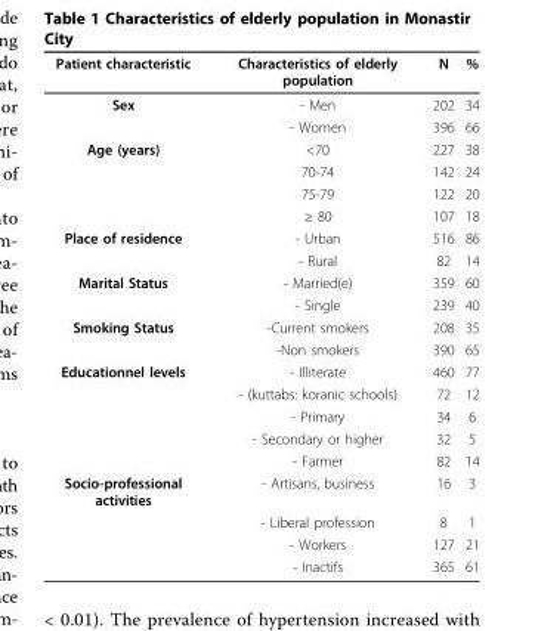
<table><thead><tr><td>Patient characteristic</td><td>Characteristics of elderly population</td><td>N</td><td>%</td></tr></thead><tbody><tr><td rowspan="2">Sex</td><td>- Men</td><td>202</td><td>34</td></tr><tr><td>- Women</td><td>396</td><td>66</td></tr><tr><td rowspan="4">Age (years)</td><td>&lt;70</td><td>227</td><td>38</td></tr><tr><td>70-74</td><td>142</td><td>24</td></tr><tr><td>75-79</td><td>122</td><td>20</td></tr><tr><td>≥ 80</td><td>107</td><td>18</td></tr><tr><td rowspan="2">Place of residence</td><td>- Urban</td><td>516</td><td>86</td></tr><tr><td>- Rural</td><td>82</td><td>14</td></tr><tr><td rowspan="2">Marital Status</td><td>- Married(e)</td><td>359</td><td>60</td></tr><tr><td>- Single</td><td>239</td><td>40</td></tr><tr><td rowspan="2">Smoking Status</td><td>-Current smokers</td><td>208</td><td>35</td></tr><tr><td>-Non smokers</td><td>390</td><td>65</td></tr><tr><td rowspan="5">Educationnel levels</td><td>- Illiterate</td><td>460</td><td>77</td></tr><tr><td>- (kuttabs: koranic schools)</td><td>72</td><td>12</td></tr><tr><td>- Primary</td><td>34</td><td>6</td></tr><tr><td>- Secondary or higher</td><td>32</td><td>5</td></tr><tr><td>- Farmer</td><td>82</td><td>14</td></tr><tr><td rowspan="4">Socio-professional activities</td><td>- Artisans, business</td><td>16</td><td>3</td></tr><tr><td>- Liberal profession</td><td>8</td><td>1</td></tr><tr><td>- Workers</td><td>127</td><td>21</td></tr><tr><td>- Inactifs</td><td>365</td><td>61</td></tr></tbody></table>